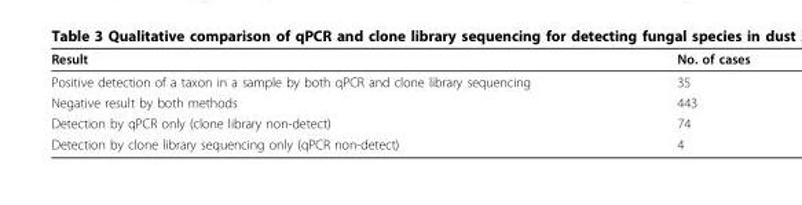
<table><thead><tr><td>Result</td><td>No. of cases</td></tr></thead><tbody><tr><td>Positive detection of a taxon in a sample by both qPCR and clone library sequencing</td><td>35</td></tr><tr><td>Negative result by both methods</td><td>443</td></tr><tr><td>Detection by qPCR only (clone library non-detect)</td><td>74</td></tr><tr><td>Detection by clone library sequencing only (qPCR non-detect)</td><td>4</td></tr></tbody></table>